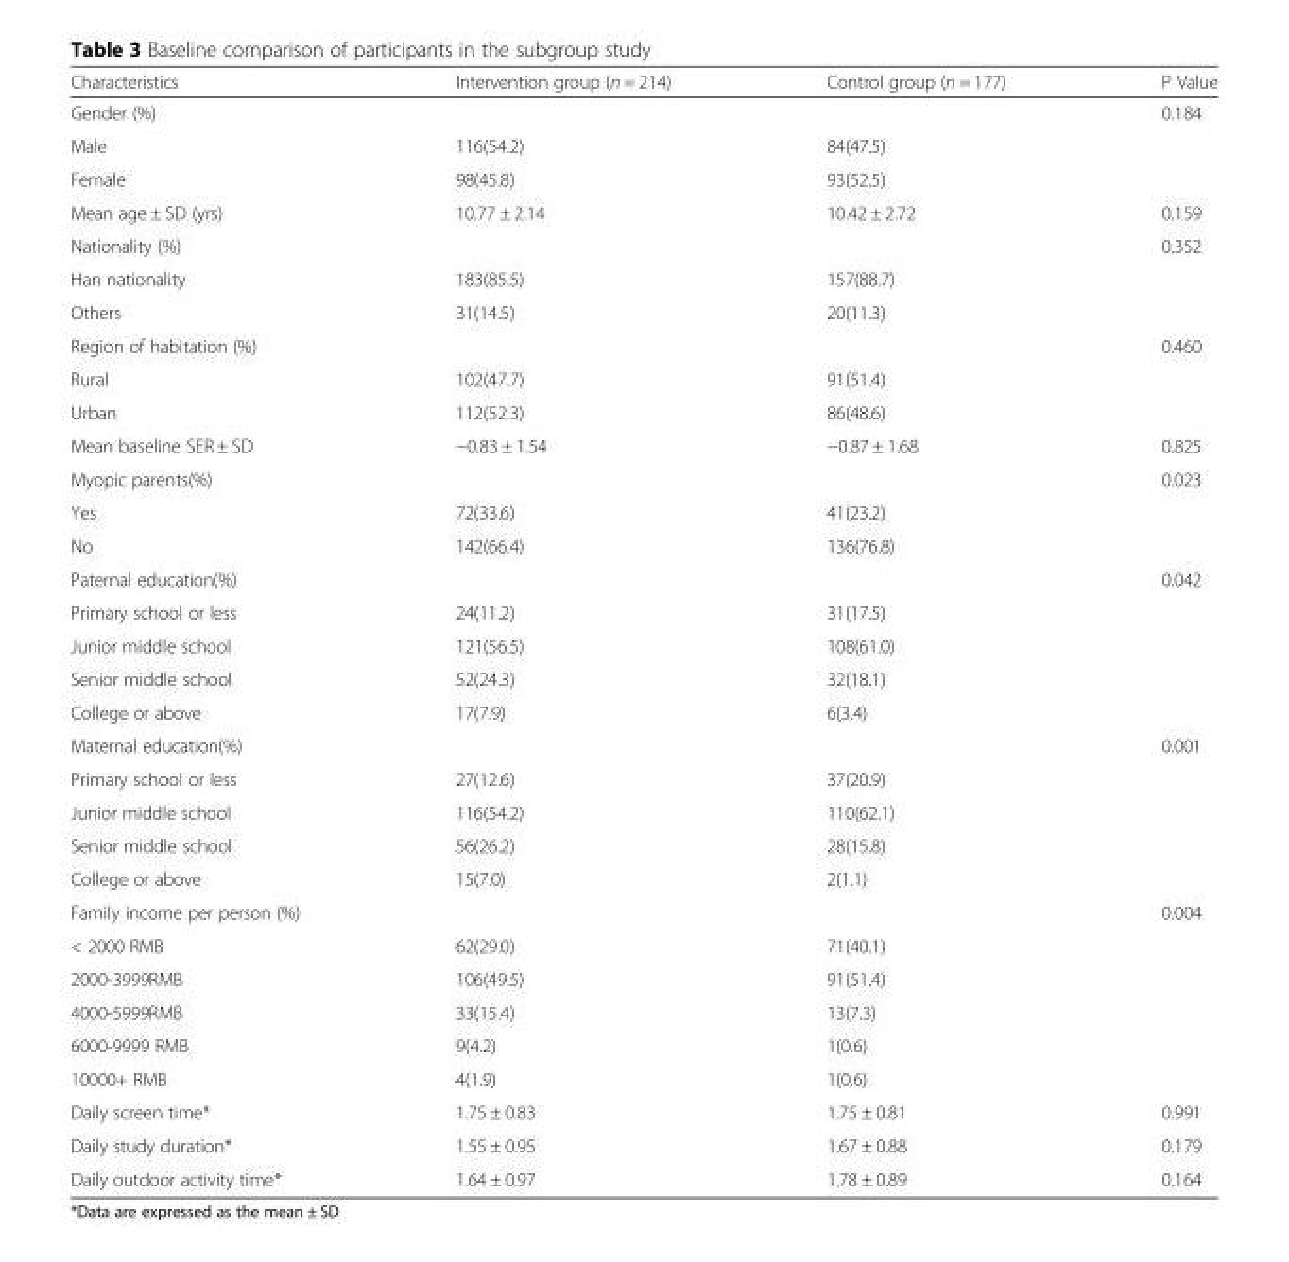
<table><thead><tr><td>Characteristics</td><td>Intervention group (n = 214)</td><td>Control group (n = 177)</td><td>P Value</td></tr></thead><tbody><tr><td>Gender (%)</td><td></td><td></td><td>0.184</td></tr><tr><td>Male</td><td>116(54.2)</td><td>84(47.5)</td><td></td></tr><tr><td>Female</td><td>98(45.8)</td><td>93(52.5)</td><td></td></tr><tr><td>Mean age ± SD (yrs)</td><td>10.77 ± 2.14</td><td>10.42 ± 2.72</td><td>0.159</td></tr><tr><td>Nationality (%)</td><td></td><td></td><td>0.352</td></tr><tr><td>Han nationality</td><td>183(85.5)</td><td>157(88.7)</td><td></td></tr><tr><td>Others</td><td>31(14.5)</td><td>20(11.3)</td><td></td></tr><tr><td>Region of habitation (%)</td><td></td><td></td><td>0.460</td></tr><tr><td>Rural</td><td>102(47.7)</td><td>91(51.4)</td><td></td></tr><tr><td>Urban</td><td>112(52.3)</td><td>86(48.6)</td><td></td></tr><tr><td>Mean baseline SER ± SD</td><td>−0.83 ± 1.54</td><td>−0.87 ± 1.68</td><td>0.825</td></tr><tr><td>Myopic parents(%)</td><td></td><td></td><td>0.023</td></tr><tr><td>Yes</td><td>72(33.6)</td><td>41(23.2)</td><td></td></tr><tr><td>No</td><td>142(66.4)</td><td>136(76.8)</td><td></td></tr><tr><td>Paternal education(%)</td><td></td><td></td><td>0.042</td></tr><tr><td>Primary school or less</td><td>24(11.2)</td><td>31(17.5)</td><td></td></tr><tr><td>Junior middle school</td><td>121(56.5)</td><td>108(61.0)</td><td></td></tr><tr><td>Senior middle school</td><td>52(24.3)</td><td>32(18.1)</td><td></td></tr><tr><td>College or above</td><td>17(7.9)</td><td>6(3.4)</td><td></td></tr><tr><td>Maternal education(%)</td><td></td><td></td><td>0.001</td></tr><tr><td>Primary school or less</td><td>27(12.6)</td><td>37(20.9)</td><td></td></tr><tr><td>Junior middle school</td><td>116(54.2)</td><td>110(62.1)</td><td></td></tr><tr><td>Senior middle school</td><td>56(26.2)</td><td>28(15.8)</td><td></td></tr><tr><td>College or above</td><td>15(7.0)</td><td>2(1.1)</td><td></td></tr><tr><td>Family income per person (%)</td><td></td><td></td><td>0.004</td></tr><tr><td>&lt; 2000 RMB</td><td>62(29.0)</td><td>71(40.1)</td><td></td></tr><tr><td>2000-3999RMB</td><td>106(49.5)</td><td>91(51.4)</td><td></td></tr><tr><td>4000-5999RMB</td><td>33(15.4)</td><td>13(7.3)</td><td></td></tr><tr><td>6000-9999 RMB</td><td>9(4.2)</td><td>1(0.6)</td><td></td></tr><tr><td>10000+ RMB</td><td>4(1.9)</td><td>1(0.6)</td><td></td></tr><tr><td>Daily screen time*</td><td>1.75 ± 0.83</td><td>1.75 ± 0.81</td><td>0.991</td></tr><tr><td>Daily study duration*</td><td>1.55 ± 0.95</td><td>1.67 ± 0.88</td><td>0.179</td></tr><tr><td>Daily outdoor activity time*</td><td>1.64 ± 0.97</td><td>1.78 ± 0.89</td><td>0.164</td></tr></tbody></table>